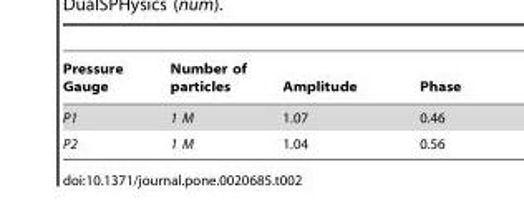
<table><thead><tr><td>Pressure Gauge</td><td>Number of particles</td><td>Amplitude</td><td>Phase</td></tr></thead><tbody><tr><td>P1</td><td>1 M</td><td>1.07</td><td>0.46</td></tr><tr><td>P2</td><td>1 M</td><td>1.04</td><td>0.56</td></tr></tbody></table>